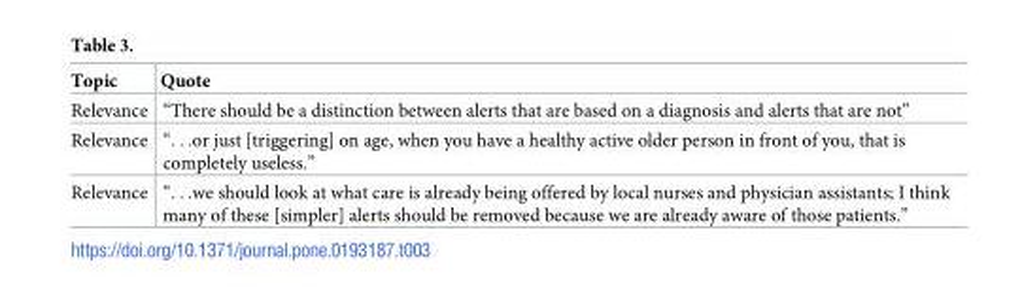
<table><thead><tr><td>Topic</td><td>Quote</td></tr></thead><tbody><tr><td>Relevance</td><td>“There should be a distinction between alerts that are based on a diagnosis and alerts that are not”</td></tr><tr><td>Relevance</td><td>“. . .or just [triggering] on age, when you have a healthy active older person in front of you, that is completely useless.”</td></tr><tr><td>Relevance</td><td>“. . .we should look at what care is already being offered by local nurses and physician assistants; I think many of these [simpler] alerts should be removed because we are already aware of those patients.”</td></tr></tbody></table>